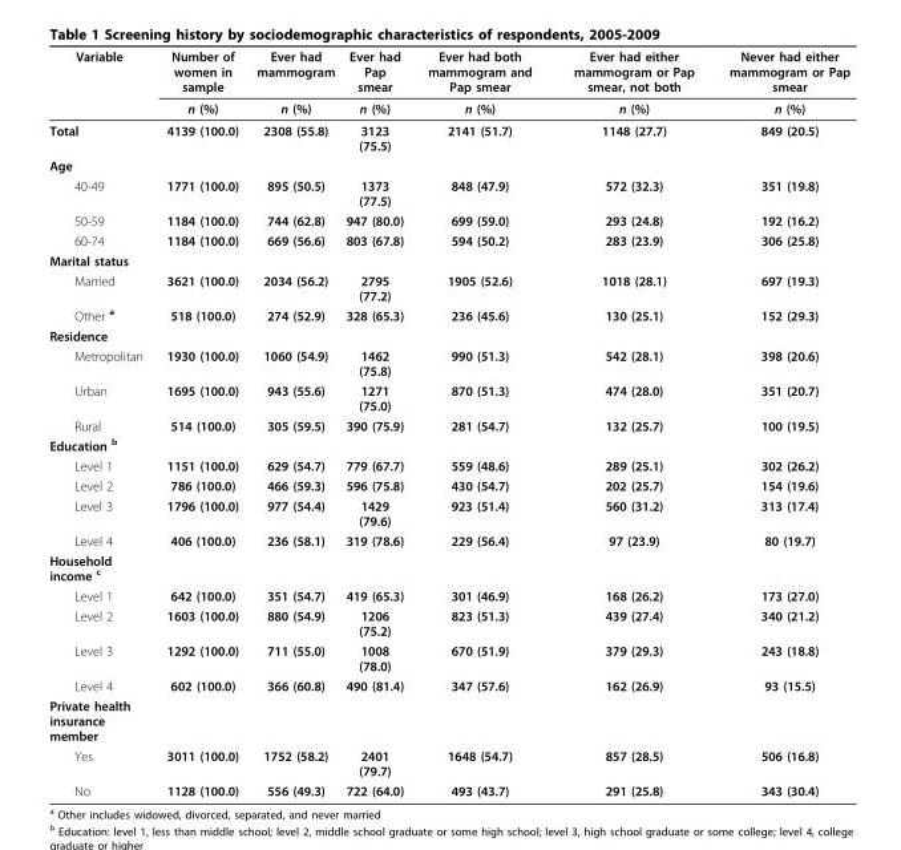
<table><thead><tr><td rowspan="2">Variable</td><td rowspan="2">Number of women in sample n (%)</td><td rowspan="2">Ever had mammogram n (%)</td><td rowspan="2">Ever had Pap smear n (%)</td><td rowspan="2">Ever had both mammogram and Pap smear n (%)</td><td rowspan="2">Ever had either mammogram or Pap smear, not both n (%)</td><td rowspan="2">Never had either mammogram or Pap smear n (%)</td></tr><tr></tr></thead><tbody><tr><td>Total</td><td>4139 (100.0)</td><td>2308 (55.8)</td><td>3123 (75.5)</td><td>2141 (51.7)</td><td>1148 (27.7)</td><td>849 (20.5)</td></tr><tr><td colspan="7">Age</td></tr><tr><td>40-49</td><td>1771 (100.0)</td><td>895 (50.5)</td><td>1373 (77.5)</td><td>848 (47.9)</td><td>572 (32.3)</td><td>351 (19.8)</td></tr><tr><td>50-59</td><td>1184 (100.0)</td><td>744 (62.8)</td><td>947 (80.0)</td><td>699 (59.0)</td><td>293 (24.8)</td><td>192 (16.2)</td></tr><tr><td>60-74</td><td>1184 (100.0)</td><td>669 (56.6)</td><td>803 (67.8)</td><td>594 (50.2)</td><td>283 (23.9)</td><td>306 (25.8)</td></tr><tr><td colspan="7">Marital status</td></tr><tr><td>Married</td><td>3621 (100.0)</td><td>2034 (56.2)</td><td>2795 (77.2)</td><td>1905 (52.6)</td><td>1018 (28.1)</td><td>697 (19.3)</td></tr><tr><td>Other <sup>a</sup></td><td>518 (100.0)</td><td>274 (52.9)</td><td>328 (65.3)</td><td>236 (45.6)</td><td>130 (25.1)</td><td>152 (29.3)</td></tr><tr><td colspan="7">Residence</td></tr><tr><td>Metropolitan</td><td>1930 (100.0)</td><td>1060 (54.9)</td><td>1462 (75.8)</td><td>990 (51.3)</td><td>542 (28.1)</td><td>398 (20.6)</td></tr><tr><td>Urban</td><td>1695 (100.0)</td><td>943 (55.6)</td><td>1271 (75.0)</td><td>870 (51.3)</td><td>474 (28.0)</td><td>351 (20.7)</td></tr><tr><td>Rural</td><td>514 (100.0)</td><td>305 (59.5)</td><td>390 (75.9)</td><td>281 (54.7)</td><td>132 (25.7)</td><td>100 (19.5)</td></tr><tr><td colspan="7">Education <sup>b</sup></td></tr><tr><td>Level 1</td><td>1151 (100.0)</td><td>629 (54.7)</td><td>779 (67.7)</td><td>559 (48.6)</td><td>289 (25.1)</td><td>302 (26.2)</td></tr><tr><td>Level 2</td><td>786 (100.0)</td><td>466 (59.3)</td><td>596 (75.8)</td><td>430 (54.7)</td><td>202 (25.7)</td><td>154 (19.6)</td></tr><tr><td>Level 3</td><td>1796 (100.0)</td><td>977 (54.4)</td><td>1429 (79.6)</td><td>923 (51.4)</td><td>560 (31.2)</td><td>313 (17.4)</td></tr><tr><td>Level 4</td><td>406 (100.0)</td><td>236 (58.1)</td><td>319 (78.6)</td><td>229 (56.4)</td><td>97 (23.9)</td><td>80 (19.7)</td></tr><tr><td colspan="7">Household income <sup>c</sup></td></tr><tr><td>Level 1</td><td>642 (100.0)</td><td>351 (54.7)</td><td>419 (65.3)</td><td>301 (46.9)</td><td>168 (26.2)</td><td>173 (27.0)</td></tr><tr><td>Level 2</td><td>1603 (100.0)</td><td>880 (54.9)</td><td>1206 (75.2)</td><td>823 (51.3)</td><td>439 (27.4)</td><td>340 (21.2)</td></tr><tr><td>Level 3</td><td>1292 (100.0)</td><td>711 (55.0)</td><td>1008 (78.0)</td><td>670 (51.9)</td><td>379 (29.3)</td><td>243 (18.8)</td></tr><tr><td>Level 4</td><td>602 (100.0)</td><td>366 (60.8)</td><td>490 (81.4)</td><td>347 (57.6)</td><td>162 (26.9)</td><td>93 (15.5)</td></tr><tr><td colspan="7">Private health insurance member</td></tr><tr><td>Yes</td><td>3011 (100.0)</td><td>1752 (58.2)</td><td>2401 (79.7)</td><td>1648 (54.7)</td><td>857 (28.5)</td><td>506 (16.8)</td></tr><tr><td>No</td><td>1128 (100.0)</td><td>556 (49.3)</td><td>722 (64.0)</td><td>493 (43.7)</td><td>291 (25.8)</td><td>343 (30.4)</td></tr></tbody></table>